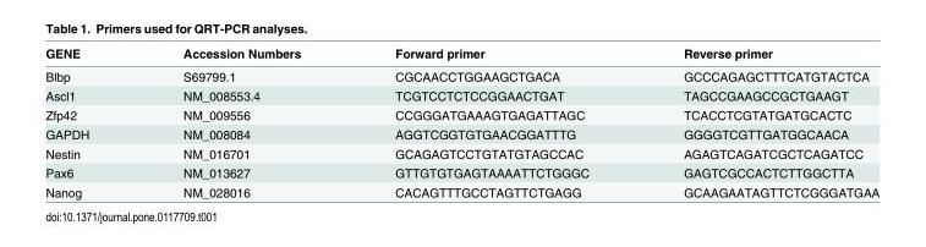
<table><thead><tr><td>GENE</td><td>Accession Numbers</td><td>Forward primer</td><td>Reverse primer</td></tr></thead><tbody><tr><td>Blbp</td><td>S69799.1</td><td>CGCAACCTGGAAGCTGACA</td><td>GCCCAGAGCTTTCATGTACTCA</td></tr><tr><td>Ascl1</td><td>NM_008553.4</td><td>TCGTCCTCTCCGGAACTGAT</td><td>TAGCCGAAGCCGCTGAAGT</td></tr><tr><td>Zfp42</td><td>NM_009556</td><td>CCGGGATGAAAGTGAGATTAGC</td><td>TCACCTCGTATGATGCACTC</td></tr><tr><td>GAPDH</td><td>NM_008084</td><td>AGGTCGGTGTGAACGGATTTG</td><td>GGGGTCGTTGATGGCAACA</td></tr><tr><td>Nestin</td><td>NM_016701</td><td>GCAGAGTCCTGTATGTAGCCAC</td><td>AGAGTCAGATCGCTCAGATCC</td></tr><tr><td>Pax6</td><td>NM_013627</td><td>GTTGTGTGAGTAAAATTCTGGGC</td><td>GAGTCGCCACTCTTGGCTTA</td></tr><tr><td>Nanog</td><td>NM_028016</td><td>CACAGTTTGCCTAGTTCTGAGG</td><td>GCAAGAATAGTTCTCGGGATGAA</td></tr></tbody></table>